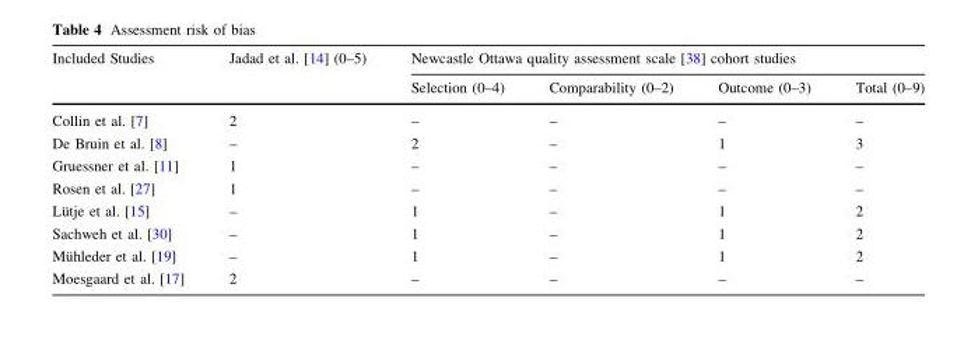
<table><thead><tr><td rowspan="2">Included Studies</td><td rowspan="2">Jadad et al. [14] (0–5)</td><td colspan="4">Newcastle Ottawa quality assessment scale [38] cohort studies</td></tr><tr><td>Selection (0–4)</td><td>Comparability (0–2)</td><td>Outcome (0–3)</td><td>Total (0–9)</td></tr></thead><tbody><tr><td>Collin et al. [7]</td><td>2</td><td>–</td><td>–</td><td>–</td><td>–</td></tr><tr><td>De Bruin et al. [8]</td><td>–</td><td>2</td><td>–</td><td>1</td><td>3</td></tr><tr><td>Gruessner et al. [11]</td><td>1</td><td>–</td><td>–</td><td>–</td><td>–</td></tr><tr><td>Rosen et al. [27]</td><td>1</td><td>–</td><td>–</td><td>–</td><td>–</td></tr><tr><td>Lu¨tje et al. [15]</td><td>–</td><td>1</td><td>–</td><td>1</td><td>2</td></tr><tr><td>Sachweh et al. [30]</td><td>–</td><td>1</td><td>–</td><td>1</td><td>2</td></tr><tr><td>Mu¨hleder et al. [19]</td><td>–</td><td>1</td><td>–</td><td>1</td><td>2</td></tr><tr><td>Moesgaard et al. [17]</td><td>2</td><td>–</td><td>–</td><td>–</td><td>–</td></tr></tbody></table>